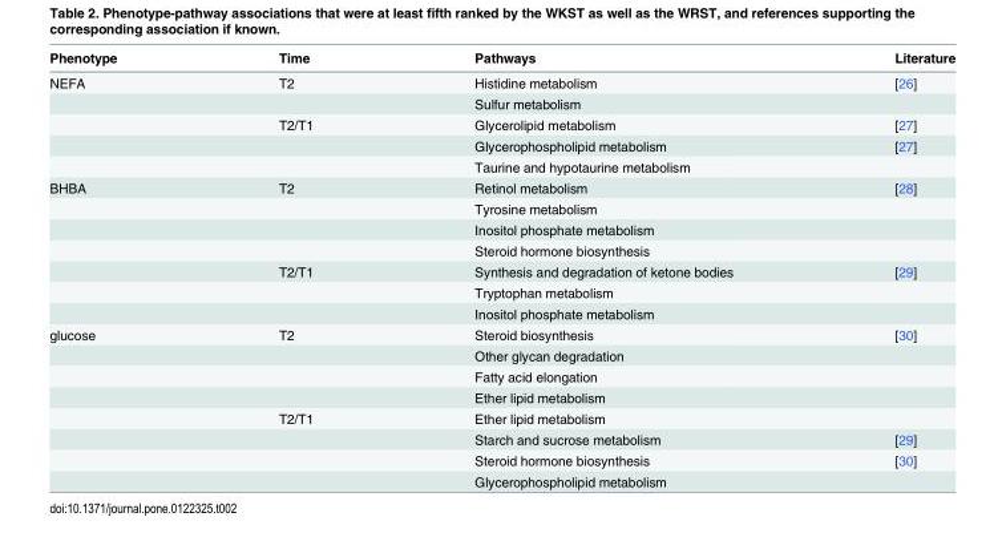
<table><thead><tr><td>Phenotype</td><td>Time</td><td>Pathways</td><td>Literature</td></tr></thead><tbody><tr><td rowspan="5">NEFA</td><td>T2</td><td>Histidine metabolism</td><td>[26]</td></tr><tr><td></td><td>Sulfur metabolism</td><td></td></tr><tr><td>T2/T1</td><td>Glycerolipid metabolism</td><td>[27]</td></tr><tr><td></td><td>Glycerophospholipid metabolism</td><td>[27]</td></tr><tr><td></td><td>Taurine and hypotaurine metabolism</td><td></td></tr><tr><td rowspan="7">BHBA</td><td>T2</td><td>Retinol metabolism</td><td>[28]</td></tr><tr><td></td><td>Tyrosine metabolism</td><td></td></tr><tr><td></td><td>Inositol phosphate metabolism</td><td></td></tr><tr><td></td><td>Steroid hormone biosynthesis</td><td></td></tr><tr><td>T2/T1</td><td>Synthesis and degradation of ketone bodies</td><td>[29]</td></tr><tr><td></td><td>Tryptophan metabolism</td><td></td></tr><tr><td></td><td>Inositol phosphate metabolism</td><td></td></tr><tr><td rowspan="8">glucose</td><td>T2</td><td>Steroid biosynthesis</td><td>[30]</td></tr><tr><td></td><td>Other glycan degradation</td><td></td></tr><tr><td></td><td>Fatty acid elongation</td><td></td></tr><tr><td></td><td>Ether lipid metabolism</td><td></td></tr><tr><td>T2/T1</td><td>Ether lipid metabolism</td><td></td></tr><tr><td></td><td>Starch and sucrose metabolism</td><td>[29]</td></tr><tr><td></td><td>Steroid hormone biosynthesis</td><td>[30]</td></tr><tr><td></td><td>Glycerophospholipid metabolism</td><td></td></tr></tbody></table>